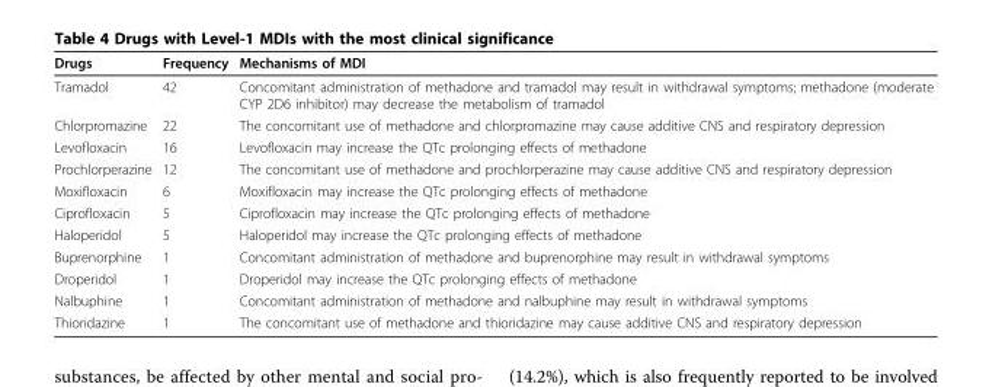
<table><thead><tr><td>Drugs</td><td>Frequency</td><td>Mechanisms of MDI</td></tr></thead><tbody><tr><td>Tramadol</td><td>42</td><td>Concomitant administration of methadone and tramadol may result in withdrawal symptoms; methadone (moderate CYP 2D6 inhibitor) may decrease the metabolism of tramadol</td></tr><tr><td>Chlorpromazine</td><td>22</td><td>The concomitant use of methadone and chlorpromazine may cause additive CNS and respiratory depression</td></tr><tr><td>Levofloxacin</td><td>16</td><td>Levofloxacin may increase the QTc prolonging effects of methadone</td></tr><tr><td>Prochlorperazine</td><td>12</td><td>The concomitant use of methadone and prochlorperazine may cause additive CNS and respiratory depression</td></tr><tr><td>Moxifloxacin</td><td>6</td><td>Moxifloxacin may increase the QTc prolonging effects of methadone</td></tr><tr><td>Ciprofloxacin</td><td>5</td><td>Ciprofloxacin may increase the QTc prolonging effects of methadone</td></tr><tr><td>Haloperidol</td><td>5</td><td>Haloperidol may increase the QTc prolonging effects of methadone</td></tr><tr><td>Buprenorphine</td><td>1</td><td>Concomitant administration of methadone and buprenorphine may result in withdrawal symptoms</td></tr><tr><td>Droperidol</td><td>1</td><td>Droperidol may increase the QTc prolonging effects of methadone</td></tr><tr><td>Nalbuphine</td><td>1</td><td>Concomitant administration of methadone and nalbuphine may result in withdrawal symptoms</td></tr><tr><td>Thioridazine</td><td>1</td><td>The concomitant use of methadone and thioridazine may cause additive CNS and respiratory depression</td></tr></tbody></table>